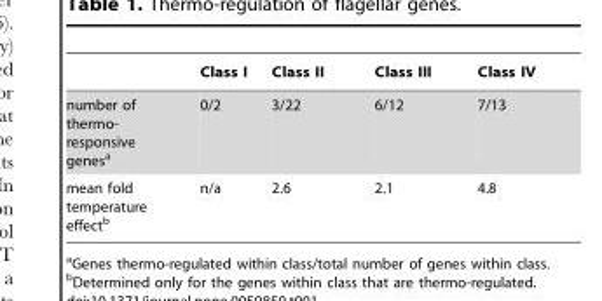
<table><thead><tr><td></td><td>Class I</td><td>Class II</td><td>Class III</td><td>Class IV</td></tr></thead><tbody><tr><td>number of thermo- responsive genes<sup>a</sup></td><td>0/2</td><td>3/22</td><td>6/12</td><td>7/13</td></tr><tr><td>mean fold temperature effect<sup>b</sup></td><td>n/a</td><td>2.6</td><td>2.1</td><td>4.8</td></tr></tbody></table>